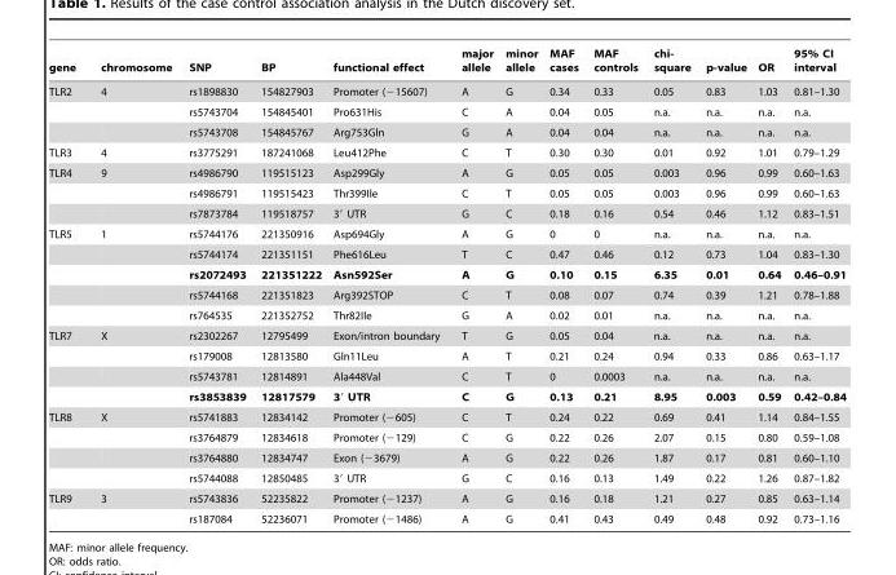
<table><thead><tr><td>gene</td><td>chromosome</td><td>SNP</td><td>BP</td><td>functional effect</td><td>major allele</td><td>minor allele</td><td>MAF cases</td><td>MAF controls</td><td>chi- square</td><td>p-value</td><td>OR</td><td>95% CI interval</td></tr></thead><tbody><tr><td rowspan="3">TLR2</td><td>4</td><td>rs1898830</td><td>154827903</td><td>Promoter (−15607)</td><td>A</td><td>G</td><td>0.34</td><td>0.33</td><td>0.05</td><td>0.83</td><td>1.03</td><td>0.81–1.30</td></tr><tr><td></td><td>rs5743704</td><td>154845401</td><td>Pro631His</td><td>C</td><td>A</td><td>0.04</td><td>0.05</td><td>n.a.</td><td>n.a.</td><td>n.a.</td><td>n.a.</td></tr><tr><td></td><td>rs5743708</td><td>154845767</td><td>Arg753Gln</td><td>G</td><td>A</td><td>0.04</td><td>0.04</td><td>n.a.</td><td>n.a.</td><td>n.a.</td><td>n.a.</td></tr><tr><td>TLR3</td><td>4</td><td>rs3775291</td><td>187241068</td><td>Leu412Phe</td><td>C</td><td>T</td><td>0.30</td><td>0.30</td><td>0.01</td><td>0.92</td><td>1.01</td><td>0.79–1.29</td></tr><tr><td rowspan="3">TLR4</td><td>9</td><td>rs4986790</td><td>119515123</td><td>Asp299Gly</td><td>A</td><td>G</td><td>0.05</td><td>0.05</td><td>0.003</td><td>0.96</td><td>0.99</td><td>0.60–1.63</td></tr><tr><td></td><td>rs4986791</td><td>119515423</td><td>Thr399Ile</td><td>C</td><td>T</td><td>0.05</td><td>0.05</td><td>0.003</td><td>0.96</td><td>0.99</td><td>0.60–1.63</td></tr><tr><td></td><td>rs7873784</td><td>119518757</td><td>3′ UTR</td><td>G</td><td>C</td><td>0.18</td><td>0.16</td><td>0.54</td><td>0.46</td><td>1.12</td><td>0.83–1.51</td></tr><tr><td rowspan="5">TLR5</td><td>1</td><td>rs5744176</td><td>221350916</td><td>Asp694Gly</td><td>A</td><td>G</td><td>0</td><td>0</td><td>n.a.</td><td>n.a.</td><td>n.a.</td><td>n.a.</td></tr><tr><td></td><td>rs5744174</td><td>221351151</td><td>Phe616Leu</td><td>T</td><td>C</td><td>0.47</td><td>0.46</td><td>0.12</td><td>0.73</td><td>1.04</td><td>0.83–1.30</td></tr><tr><td></td><td>rs2072493</td><td>221351222</td><td>Asn592Ser</td><td>A</td><td>G</td><td>0.10</td><td>0.15</td><td>6.35</td><td>0.01</td><td>0.64</td><td>0.46–0.91</td></tr><tr><td></td><td>rs5744168</td><td>221351823</td><td>Arg392STOP</td><td>C</td><td>T</td><td>0.08</td><td>0.07</td><td>0.74</td><td>0.39</td><td>1.21</td><td>0.78–1.88</td></tr><tr><td></td><td>rs764535</td><td>221352752</td><td>Thr82Ile</td><td>G</td><td>A</td><td>0.02</td><td>0.01</td><td>n.a.</td><td>n.a.</td><td>n.a.</td><td>n.a.</td></tr><tr><td rowspan="4">TLR7</td><td>X</td><td>rs2302267</td><td>12795499</td><td>Exon/intron boundary</td><td>T</td><td>G</td><td>0.05</td><td>0.04</td><td>n.a.</td><td>n.a.</td><td>n.a.</td><td>n.a.</td></tr><tr><td></td><td>rs179008</td><td>12813580</td><td>Gln11Leu</td><td>A</td><td>T</td><td>0.21</td><td>0.24</td><td>0.94</td><td>0.33</td><td>0.86</td><td>0.63–1.17</td></tr><tr><td></td><td>rs5743781</td><td>12814891</td><td>Ala448Val</td><td>C</td><td>T</td><td>0</td><td>0.0003</td><td>n.a.</td><td>n.a.</td><td>n.a.</td><td>n.a.</td></tr><tr><td></td><td>rs3853839</td><td>12817579</td><td>3′ UTR</td><td>C</td><td>G</td><td>0.13</td><td>0.21</td><td>8.95</td><td>0.003</td><td>0.59</td><td>0.42–0.84</td></tr><tr><td rowspan="4">TLR8</td><td>X</td><td>rs5741883</td><td>12834142</td><td>Promoter (−605)</td><td>C</td><td>T</td><td>0.24</td><td>0.22</td><td>0.69</td><td>0.41</td><td>1.14</td><td>0.84–1.55</td></tr><tr><td></td><td>rs3764879</td><td>12834618</td><td>Promoter (−129)</td><td>C</td><td>G</td><td>0.22</td><td>0.26</td><td>2.07</td><td>0.15</td><td>0.80</td><td>0.59–1.08</td></tr><tr><td></td><td>rs3764880</td><td>12834747</td><td>Exon (−3679)</td><td>A</td><td>G</td><td>0.22</td><td>0.26</td><td>1.87</td><td>0.17</td><td>0.81</td><td>0.60–1.10</td></tr><tr><td></td><td>rs5744088</td><td>12850485</td><td>3′ UTR</td><td>G</td><td>C</td><td>0.16</td><td>0.13</td><td>1.49</td><td>0.22</td><td>1.26</td><td>0.87–1.82</td></tr><tr><td rowspan="2">TLR9</td><td>3</td><td>rs5743836</td><td>52235822</td><td>Promoter (−1237)</td><td>A</td><td>G</td><td>0.16</td><td>0.18</td><td>1.21</td><td>0.27</td><td>0.85</td><td>0.63–1.14</td></tr><tr><td></td><td>rs187084</td><td>52236071</td><td>Promoter (−1486)</td><td>A</td><td>G</td><td>0.41</td><td>0.43</td><td>0.49</td><td>0.48</td><td>0.92</td><td>0.73–1.16</td></tr></tbody></table>